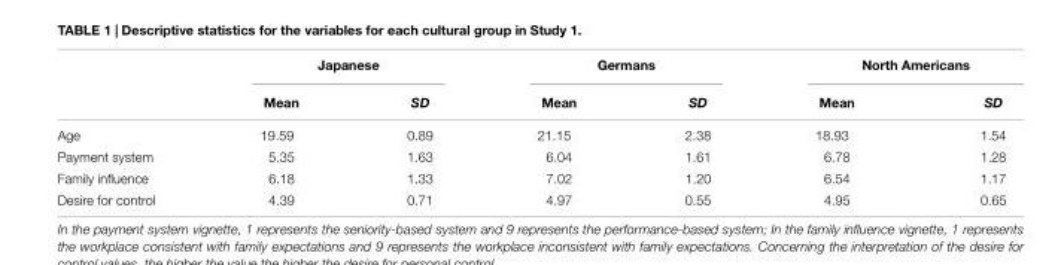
<table><thead><tr><td rowspan="2"></td><td colspan="2">Japanese</td><td colspan="2">Germans</td><td colspan="2">North Americans</td></tr><tr><td>Mean</td><td>SD</td><td>Mean</td><td>SD</td><td>Mean</td><td>SD</td></tr></thead><tbody><tr><td>Age</td><td>19.59</td><td>0.89</td><td>21.15</td><td>2.38</td><td>18.93</td><td>1.54</td></tr><tr><td>Payment system</td><td>5.35</td><td>1.63</td><td>6.04</td><td>1.61</td><td>6.78</td><td>1.28</td></tr><tr><td>Family influence</td><td>6.18</td><td>1.33</td><td>7.02</td><td>1.20</td><td>6.54</td><td>1.17</td></tr><tr><td>Desire for control</td><td>4.39</td><td>0.71</td><td>4.97</td><td>0.55</td><td>4.95</td><td>0.65</td></tr></tbody></table>